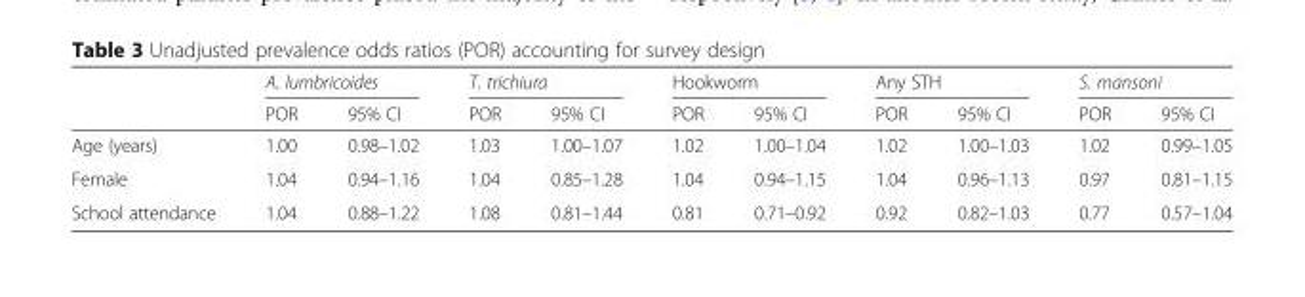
<table><thead><tr><td rowspan="2"></td><td colspan="2">A. lumbricoides</td><td colspan="2">T. trichiura</td><td colspan="2">Hookworm</td><td colspan="2">Any STH</td><td colspan="2">S. mansoni</td></tr><tr><td>POR</td><td>95% CI</td><td>POR</td><td>95% CI</td><td>POR</td><td>95% CI</td><td>POR</td><td>95% CI</td><td>POR</td><td>95% CI</td></tr></thead><tbody><tr><td>Age (years)</td><td>1.00</td><td>0.98–1.02</td><td>1.03</td><td>1.00–1.07</td><td>1.02</td><td>1.00–1.04</td><td>1.02</td><td>1.00–1.03</td><td>1.02</td><td>0.99–1.05</td></tr><tr><td>Female</td><td>1.04</td><td>0.94–1.16</td><td>1.04</td><td>0.85–1.28</td><td>1.04</td><td>0.94–1.15</td><td>1.04</td><td>0.96–1.13</td><td>0.97</td><td>0.81–1.15</td></tr><tr><td>School attendance</td><td>1.04</td><td>0.88–1.22</td><td>1.08</td><td>0.81–1.44</td><td>0.81</td><td>0.71–0.92</td><td>0.92</td><td>0.82–1.03</td><td>0.77</td><td>0.57–1.04</td></tr></tbody></table>